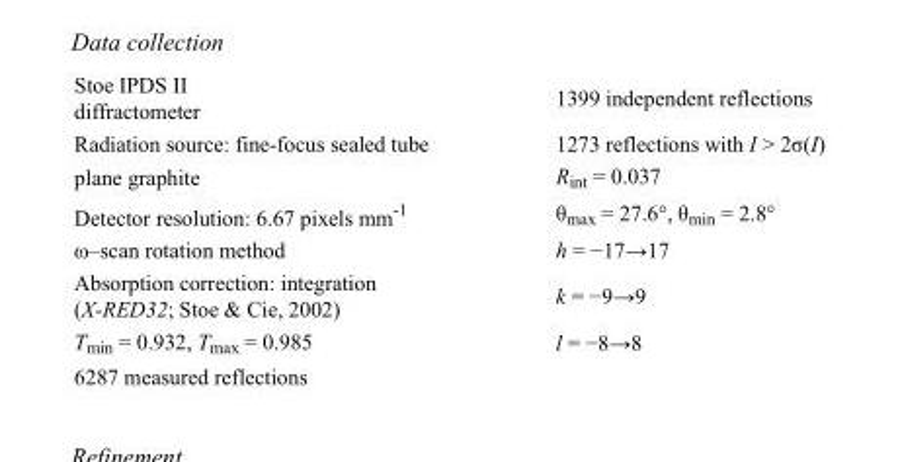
<table><tbody><tr><td>Stoe IPDS II diffractometer</td><td>1399 independent reflections</td></tr><tr><td>Radiation source: fine-focus sealed tube</td><td>1273 reflections with I &gt; 2σ(I)</td></tr><tr><td>plane graphite</td><td>R<sub>int</sub> = 0.037</td></tr><tr><td>Detector resolution: 6.67 pixels mm<sup>-1</sup></td><td>θ<sub>max</sub> = 27.6°, θ<sub>min</sub> = 2.8°</td></tr><tr><td>ω–scan rotation method</td><td>h = −17→17</td></tr><tr><td>Absorption correction: integration (X-RED32; Stoe &amp; Cie, 2002)</td><td>k = −9→9</td></tr><tr><td>T<sub>min</sub> = 0.932, T<sub>max</sub> = 0.985</td><td>l = −8→8</td></tr><tr><td>6287 measured reflections</td><td></td></tr></tbody></table>